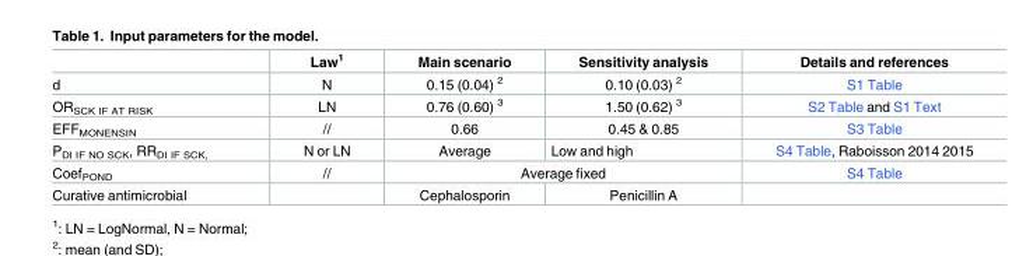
<table><thead><tr><td></td><td>Law<sup>1</sup></td><td>Main scenario</td><td>Sensitivity analysis</td><td>Details and references</td></tr></thead><tbody><tr><td>d</td><td>N</td><td>0.15 (0.04) <sup>2</sup></td><td>0.10 (0.03) <sup>2</sup></td><td>S1 Table</td></tr><tr><td>OR<sub>SCK IF AT RISK</sub></td><td>LN</td><td>0.76 (0.60) <sup>3</sup></td><td>1.50 (0.62) <sup>3</sup></td><td>S2 Table and S1 Text</td></tr><tr><td>EFF<sub>MONENSIN</sub></td><td>//</td><td>0.66</td><td>0.45 &amp; 0.85</td><td>S3 Table</td></tr><tr><td>P<sub>DI IF NO SCK</sub>, RR<sub>DI IF SCK,</sub></td><td>N or LN</td><td>Average</td><td>Low and high</td><td>S4 Table, Raboisson 2014 2015</td></tr><tr><td>Coef<sub>POND</sub></td><td>//</td><td colspan="2">Average fixed</td><td>S4 Table</td></tr><tr><td>Curative antimicrobial</td><td></td><td>Cephalosporin</td><td>Penicillin A</td><td></td></tr></tbody></table>